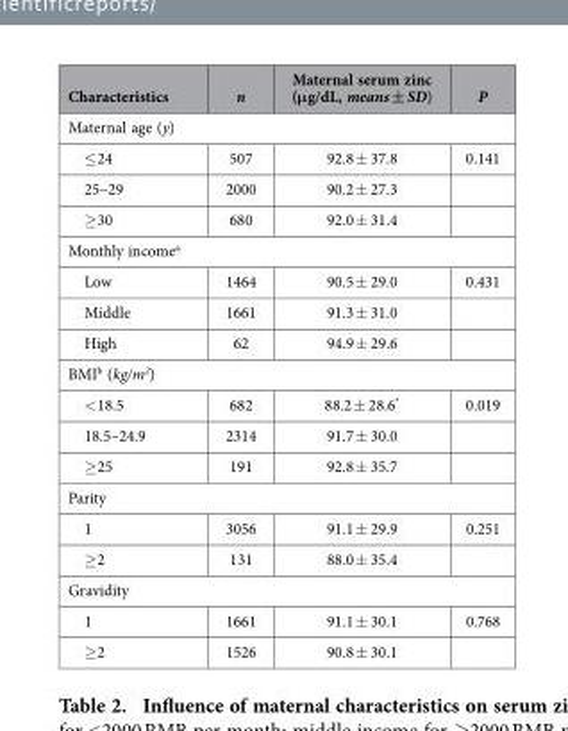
<table><thead><tr><td>Characteristics</td><td>n</td><td>Maternal serum zinc (μg/dL, means ± SD)</td><td>P</td></tr></thead><tbody><tr><td colspan="4">Maternal age (y)</td></tr><tr><td>≤ 24</td><td>507</td><td>92.8 ± 37.8</td><td>0.141</td></tr><tr><td>25–29</td><td>2000</td><td>90.2 ± 27.3</td><td></td></tr><tr><td>≥ 30</td><td>680</td><td>92.0 ± 31.4</td><td></td></tr><tr><td colspan="4">Monthly income<sup>a</sup></td></tr><tr><td>Low</td><td>1464</td><td>90.5 ± 29.0</td><td>0.431</td></tr><tr><td>Middle</td><td>1661</td><td>91.3 ± 31.0</td><td></td></tr><tr><td>High</td><td>62</td><td>94.9 ± 29.6</td><td></td></tr><tr><td colspan="4">BMI<sup>b</sup> (kg/m<sup>2</sup>)</td></tr><tr><td>&lt; 18.5</td><td>682</td><td>88.2 ± 28.6*</td><td>0.019</td></tr><tr><td>18.5–24.9</td><td>2314</td><td>91.7 ± 30.0</td><td></td></tr><tr><td>≥ 25</td><td>191</td><td>92.8 ± 35.7</td><td></td></tr><tr><td colspan="4">Parity</td></tr><tr><td>1</td><td>3056</td><td>91.1 ± 29.9</td><td>0.251</td></tr><tr><td>≥ 2</td><td>131</td><td>88.0 ± 35.4</td><td></td></tr><tr><td colspan="4">Gravidity</td></tr><tr><td>1</td><td>1661</td><td>91.1 ± 30.1</td><td>0.768</td></tr><tr><td>≥ 2</td><td>1526</td><td>90.8 ± 30.1</td><td></td></tr></tbody></table>